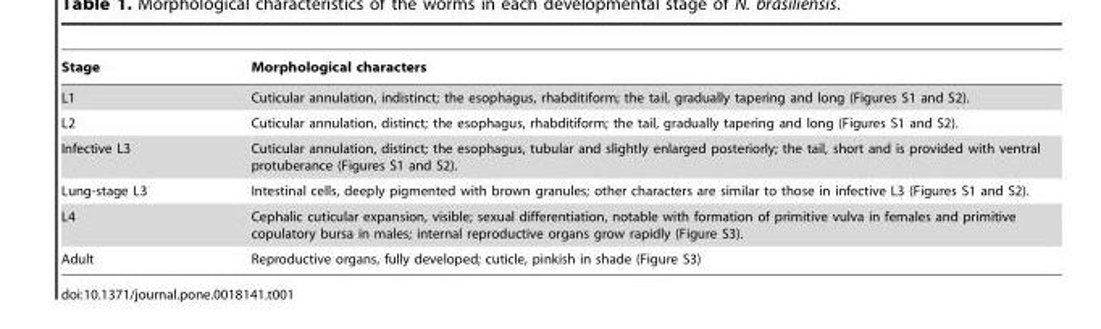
<table><thead><tr><td>Stage</td><td>Morphological characters</td></tr></thead><tbody><tr><td>L1</td><td>Cuticular annulation, indistinct; the esophagus, rhabditiform; the tail, gradually tapering and long (Figures S1 and S2).</td></tr><tr><td>L2</td><td>Cuticular annulation, distinct; the esophagus, rhabditiform; the tail, gradually tapering and long (Figures S1 and S2).</td></tr><tr><td>Infective L3</td><td>Cuticular annulation, distinct; the esophagus, tubular and slightly enlarged posteriorly; the tail, short and is provided with ventral protuberance (Figures S1 and S2).</td></tr><tr><td>Lung-stage L3</td><td>Intestinal cells, deeply pigmented with brown granules; other characters are similar to those in infective L3 (Figures S1 and S2).</td></tr><tr><td>L4</td><td>Cephalic cuticular expansion, visible; sexual differentiation, notable with formation of primitive vulva in females and primitive copulatory bursa in males; internal reproductive organs grow rapidly (Figure S3).</td></tr><tr><td>Adult</td><td>Reproductive organs, fully developed; cuticle, pinkish in shade (Figure S3)</td></tr></tbody></table>